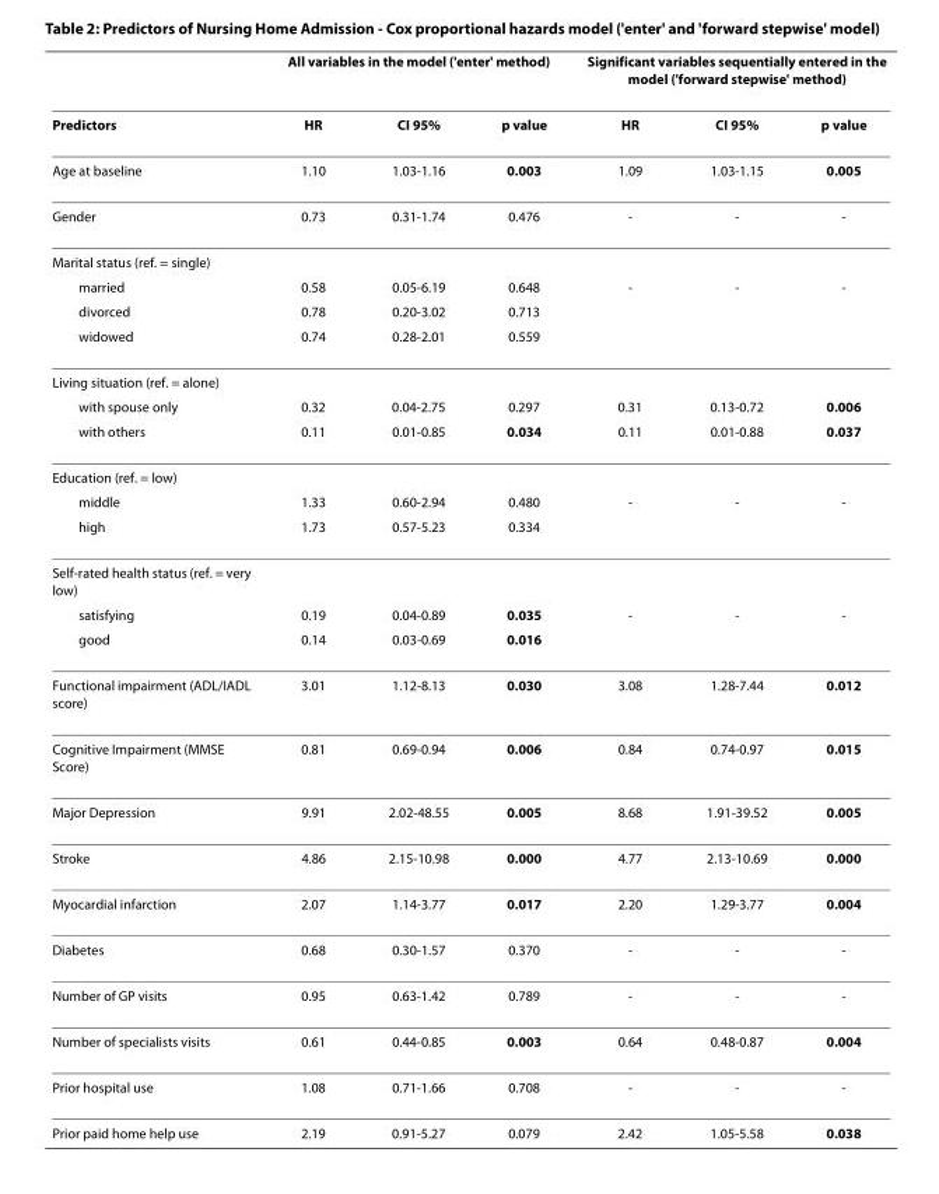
<table><thead><tr><td rowspan="2">Predictors</td><td colspan="3">All variables in the model (&#x27;enter&#x27; method)</td><td colspan="3">Significant variables sequentially entered in the model (&#x27;forward stepwise&#x27; method)</td></tr><tr><td>HR</td><td>CI 95%</td><td>p value</td><td>HR</td><td>CI 95%</td><td>p value</td></tr></thead><tbody><tr><td>Age at baseline</td><td>1.10</td><td>1.03-1.16</td><td>0.003</td><td>1.09</td><td>1.03-1.15</td><td>0.005</td></tr><tr><td>Gender</td><td>0.73</td><td>0.31-1.74</td><td>0.476</td><td>-</td><td>-</td><td>-</td></tr><tr><td colspan="7">Marital status (ref. = single)</td></tr><tr><td>married</td><td>0.58</td><td>0.05-6.19</td><td>0.648</td><td>-</td><td>-</td><td>-</td></tr><tr><td>divorced</td><td>0.78</td><td>0.20-3.02</td><td>0.713</td><td></td><td></td><td></td></tr><tr><td>widowed</td><td>0.74</td><td>0.28-2.01</td><td>0.559</td><td></td><td></td><td></td></tr><tr><td colspan="7">Living situation (ref. = alone)</td></tr><tr><td>with spouse only</td><td>0.32</td><td>0.04-2.75</td><td>0.297</td><td>0.31</td><td>0.13-0.72</td><td>0.006</td></tr><tr><td>with others</td><td>0.11</td><td>0.01-0.85</td><td>0.034</td><td>0.11</td><td>0.01-0.88</td><td>0.037</td></tr><tr><td colspan="7">Education (ref. = low)</td></tr><tr><td>middle</td><td>1.33</td><td>0.60-2.94</td><td>0.480</td><td>-</td><td>-</td><td>-</td></tr><tr><td>high</td><td>1.73</td><td>0.57-5.23</td><td>0.334</td><td></td><td></td><td></td></tr><tr><td colspan="7">Self-rated health status (ref. = very low)</td></tr><tr><td>satisfying</td><td>0.19</td><td>0.04-0.89</td><td>0.035</td><td>-</td><td>-</td><td>-</td></tr><tr><td>good</td><td>0.14</td><td>0.03-0.69</td><td>0.016</td><td></td><td></td><td></td></tr><tr><td>Functional impairment (ADL/IADL score)</td><td>3.01</td><td>1.12-8.13</td><td>0.030</td><td>3.08</td><td>1.28-7.44</td><td>0.012</td></tr><tr><td>Cognitive Impairment (MMSE Score)</td><td>0.81</td><td>0.69-0.94</td><td>0.006</td><td>0.84</td><td>0.74-0.97</td><td>0.015</td></tr><tr><td>Major Depression</td><td>9.91</td><td>2.02-48.55</td><td>0.005</td><td>8.68</td><td>1.91-39.52</td><td>0.005</td></tr><tr><td>Stroke</td><td>4.86</td><td>2.15-10.98</td><td>0.000</td><td>4.77</td><td>2.13-10.69</td><td>0.000</td></tr><tr><td>Myocardial infarction</td><td>2.07</td><td>1.14-3.77</td><td>0.017</td><td>2.20</td><td>1.29-3.77</td><td>0.004</td></tr><tr><td>Diabetes</td><td>0.68</td><td>0.30-1.57</td><td>0.370</td><td>-</td><td>-</td><td>-</td></tr><tr><td>Number of GP visits</td><td>0.95</td><td>0.63-1.42</td><td>0.789</td><td>-</td><td>-</td><td>-</td></tr><tr><td>Number of specialists visits</td><td>0.61</td><td>0.44-0.85</td><td>0.003</td><td>0.64</td><td>0.48-0.87</td><td>0.004</td></tr><tr><td>Prior hospital use</td><td>1.08</td><td>0.71-1.66</td><td>0.708</td><td>-</td><td>-</td><td>-</td></tr><tr><td>Prior paid home help use</td><td>2.19</td><td>0.91-5.27</td><td>0.079</td><td>2.42</td><td>1.05-5.58</td><td>0.038</td></tr></tbody></table>